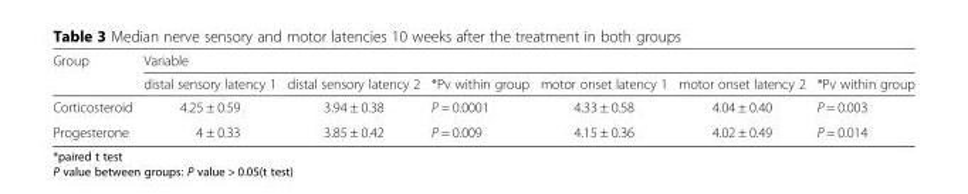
<table><thead><tr><td rowspan="2">Group</td><td colspan="6">Variable</td></tr><tr><td>distal sensory latency 1</td><td>distal sensory latency 2</td><td>*Pv within group</td><td>motor onset latency 1</td><td>motor onset latency 2</td><td>*Pv within group</td></tr></thead><tbody><tr><td>Corticosteroid</td><td>4.25 ± 0.59</td><td>3.94 ± 0.38</td><td>P = 0.0001</td><td>4.33 ± 0.58</td><td>4.04 ± 0.40</td><td>P = 0.003</td></tr><tr><td>Progesterone</td><td>4 ± 0.33</td><td>3.85 ± 0.42</td><td>P = 0.009</td><td>4.15 ± 0.36</td><td>4.02 ± 0.49</td><td>P = 0.014</td></tr></tbody></table>